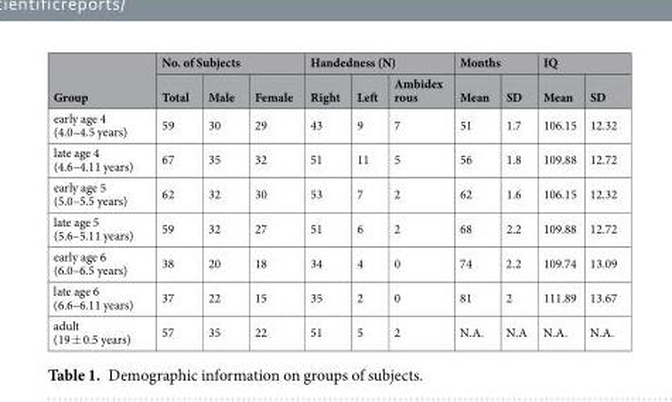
<table><thead><tr><td rowspan="2">Group</td><td colspan="3">No. of Subjects</td><td colspan="3">Handedness (N)</td><td colspan="2">Months</td><td colspan="2">IQ</td></tr><tr><td>Total</td><td>Male</td><td>Female</td><td>Right</td><td>Left</td><td>Ambidex rous</td><td>Mean</td><td>SD</td><td>Mean</td><td>SD</td></tr></thead><tbody><tr><td>early age 4 (4.0–4.5 years)</td><td>59</td><td>30</td><td>29</td><td>43</td><td>9</td><td>7</td><td>51</td><td>1.7</td><td>106.15</td><td>12.32</td></tr><tr><td>late age 4 (4.6–4.11 years)</td><td>67</td><td>35</td><td>32</td><td>51</td><td>11</td><td>5</td><td>56</td><td>1.8</td><td>109.88</td><td>12.72</td></tr><tr><td>early age 5 (5.0–5.5 years)</td><td>62</td><td>32</td><td>30</td><td>53</td><td>7</td><td>2</td><td>62</td><td>1.6</td><td>106.15</td><td>12.32</td></tr><tr><td>late age 5 (5.6–5.11 years)</td><td>59</td><td>32</td><td>27</td><td>51</td><td>6</td><td>2</td><td>68</td><td>2.2</td><td>109.88</td><td>12.72</td></tr><tr><td>early age 6 (6.0–6.5 years)</td><td>38</td><td>20</td><td>18</td><td>34</td><td>4</td><td>0</td><td>74</td><td>2.2</td><td>109.74</td><td>13.09</td></tr><tr><td>late age 6 (6.6–6.11 years)</td><td>37</td><td>22</td><td>15</td><td>35</td><td>2</td><td>0</td><td>81</td><td>2</td><td>111.89</td><td>13.67</td></tr><tr><td>adult (19 ± 0.5 years)</td><td>57</td><td>35</td><td>22</td><td>51</td><td>5</td><td>2</td><td>N.A.</td><td>N.A</td><td>N.A.</td><td>N.A.</td></tr></tbody></table>